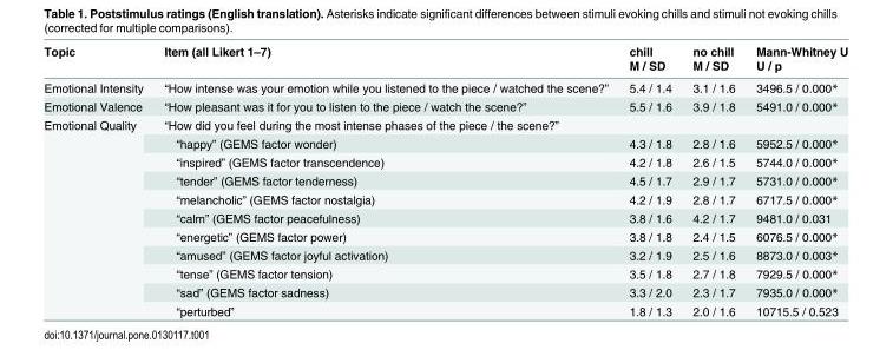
<table><thead><tr><td>Topic</td><td>Item (all Likert 1–7)</td><td>chill M / SD</td><td>no chill M / SD</td><td>Mann-Whitney U U / p</td></tr></thead><tbody><tr><td>Emotional Intensity</td><td>“How intense was your emotion while you listened to the piece / watched the scene?”</td><td>5.4 / 1.4</td><td>3.1 / 1.6</td><td>3496.5 / 0.000*</td></tr><tr><td>Emotional Valence</td><td>“How pleasant was it for you to listen to the piece / watch the scene?”</td><td>5.5 / 1.6</td><td>3.9 / 1.8</td><td>5491.0 / 0.000*</td></tr><tr><td rowspan="11">Emotional Quality</td><td>“How did you feel during the most intense phases of the piece / the scene?”</td><td></td><td></td><td></td></tr><tr><td>“happy” (GEMS factor wonder)</td><td>4.3 / 1.8</td><td>2.8 / 1.6</td><td>5952.5 / 0.000*</td></tr><tr><td>“inspired” (GEMS factor transcendence)</td><td>4.2 / 1.8</td><td>2.6 / 1.5</td><td>5744.0 / 0.000*</td></tr><tr><td>“tender” (GEMS factor tenderness)</td><td>4.5 / 1.7</td><td>2.9 / 1.7</td><td>5731.0 / 0.000*</td></tr><tr><td>“melancholic” (GEMS factor nostalgia)</td><td>4.2 / 1.9</td><td>2.8 / 1.7</td><td>6717.5 / 0.000*</td></tr><tr><td>“calm” (GEMS factor peacefulness)</td><td>3.8 / 1.6</td><td>4.2 / 1.7</td><td>9481.0 / 0.031</td></tr><tr><td>“energetic” (GEMS factor power)</td><td>3.8 / 1.8</td><td>2.4 / 1.5</td><td>6076.5 / 0.000*</td></tr><tr><td>“amused” (GEMS factor joyful activation)</td><td>3.2 / 1.9</td><td>2.5 / 1.6</td><td>8873.0 / 0.003*</td></tr><tr><td>“tense” (GEMS factor tension)</td><td>3.5 / 1.8</td><td>2.7 / 1.8</td><td>7929.5 / 0.000*</td></tr><tr><td>“sad” (GEMS factor sadness)</td><td>3.3 / 2.0</td><td>2.3 / 1.7</td><td>7935.0 / 0.000*</td></tr><tr><td>“perturbed”</td><td>1.8 / 1.3</td><td>2.0 / 1.6</td><td>10715.5 / 0.523</td></tr></tbody></table>